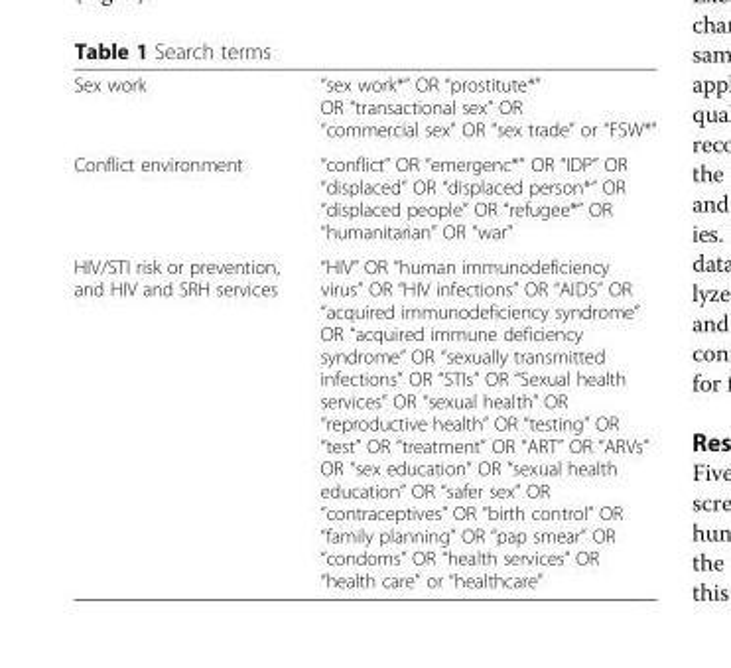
<table><tbody><tr><td>Sex work</td><td>“sex work*” OR “prostitute*” OR “transactional sex” OR “commercial sex” OR “sex trade” or “FSW*”</td></tr><tr><td>Conflict environment</td><td>“conflict” OR “emergenc*” OR “IDP” OR “displaced” OR “displaced person*” OR “displaced people” OR “refugee*” OR “humanitarian” OR “war”</td></tr><tr><td>HIV/STI risk or prevention, and HIV and SRH services</td><td>“HIV” OR “human immunodeficiency virus” OR “HIV infections” OR “AIDS” OR “acquired immunodeficiency syndrome” OR “acquired immune deficiency syndrome” OR “sexually transmitted infections” OR “STIs” OR “Sexual health services” OR “sexual health” OR “reproductive health” OR “testing” OR “test” OR “treatment” OR “ART” OR “ARVs” OR “sex education” OR “sexual health education” OR “safer sex” OR “contraceptives” OR “birth control” OR “family planning” OR “pap smear” OR “condoms” OR “health services” OR “health care” or “healthcare”</td></tr></tbody></table>